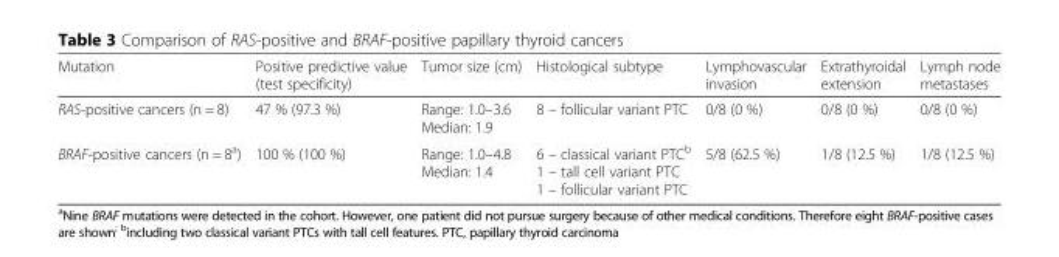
<table><thead><tr><td>Mutation</td><td>Positive predictive value (test specificity)</td><td>Tumor size (cm)</td><td>Histological subtype</td><td>Lymphovascular invasion</td><td>Extrathyroidal extension</td><td>Lymph node metastases</td></tr></thead><tbody><tr><td>RAS-positive cancers (n = 8)</td><td>47 % (97.3 %)</td><td>Range: 1.0–3.6 Median: 1.9</td><td>8 – follicular variant PTC</td><td>0/8 (0 %)</td><td>0/8 (0 %)</td><td>0/8 (0 %)</td></tr><tr><td>BRAF-positive cancers (n = 8<sup>a</sup>)</td><td>100 % (100 %)</td><td>Range: 1.0–4.8 Median: 1.4</td><td>6 – classical variant PTC<sup>b</sup> 1 – tall cell variant PTC 1 – follicular variant PTC</td><td>5/8 (62.5 %)</td><td>1/8 (12.5 %)</td><td>1/8 (12.5 %)</td></tr></tbody></table>